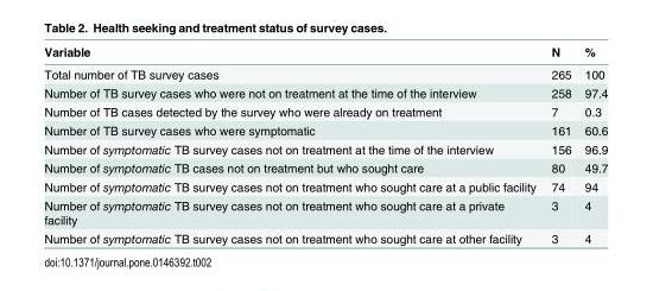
<table><thead><tr><td>Variable</td><td>N</td><td>%</td></tr></thead><tbody><tr><td>Total number of TB survey cases</td><td>265</td><td>100</td></tr><tr><td>Number of TB survey cases who were not on treatment at the time of the interview</td><td>258</td><td>97.4</td></tr><tr><td>Number of TB cases detected by the survey who were already on treatment</td><td>7</td><td>0.3</td></tr><tr><td>Number of TB survey cases who were symptomatic</td><td>161</td><td>60.6</td></tr><tr><td>Number of symptomatic TB survey cases not on treatment at the time of the interview</td><td>156</td><td>96.9</td></tr><tr><td>Number of symptomatic TB cases not on treatment but who sought care</td><td>80</td><td>49.7</td></tr><tr><td>Number of symptomatic TB survey cases not on treatment who sought care at a public facility</td><td>74</td><td>94</td></tr><tr><td>Number of symptomatic TB survey cases not on treatment who sought care at a private facility</td><td>3</td><td>4</td></tr><tr><td>Number of symptomatic TB survey cases not on treatment who sought care at other facility</td><td>3</td><td>4</td></tr></tbody></table>